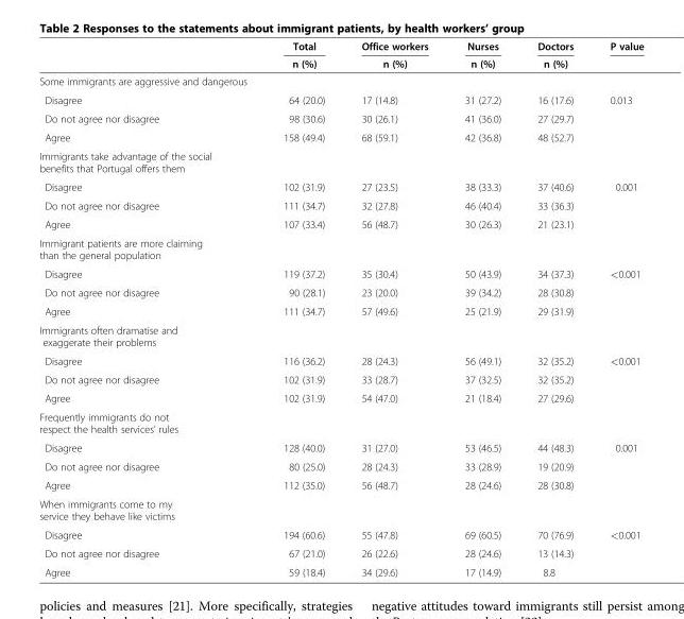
<table><thead><tr><td rowspan="2"></td><td rowspan="2">Total n (%)</td><td rowspan="2">Office workers n (%)</td><td rowspan="2">Nurses n (%)</td><td rowspan="2">Doctors n (%)</td><td rowspan="2">P value</td></tr><tr></tr></thead><tbody><tr><td colspan="6">Some immigrants are aggressive and dangerous</td></tr><tr><td>Disagree</td><td>64 (20.0)</td><td>17 (14.8)</td><td>31 (27.2)</td><td>16 (17.6)</td><td>0.013</td></tr><tr><td>Do not agree nor disagree</td><td>98 (30.6)</td><td>30 (26.1)</td><td>41 (36.0)</td><td>27 (29.7)</td><td></td></tr><tr><td>Agree</td><td>158 (49.4)</td><td>68 (59.1)</td><td>42 (36.8)</td><td>48 (52.7)</td><td></td></tr><tr><td colspan="6">Immigrants take advantage of the social benefits that Portugal offers them</td></tr><tr><td>Disagree</td><td>102 (31.9)</td><td>27 (23.5)</td><td>38 (33.3)</td><td>37 (40.6)</td><td>0.001</td></tr><tr><td>Do not agree nor disagree</td><td>111 (34.7)</td><td>32 (27.8)</td><td>46 (40.4)</td><td>33 (36.3)</td><td></td></tr><tr><td>Agree</td><td>107 (33.4)</td><td>56 (48.7)</td><td>30 (26.3)</td><td>21 (23.1)</td><td></td></tr><tr><td colspan="6">Immigrant patients are more claiming than the general population</td></tr><tr><td>Disagree</td><td>119 (37.2)</td><td>35 (30.4)</td><td>50 (43.9)</td><td>34 (37.3)</td><td>&lt;0.001</td></tr><tr><td>Do not agree nor disagree</td><td>90 (28.1)</td><td>23 (20.0)</td><td>39 (34.2)</td><td>28 (30.8)</td><td></td></tr><tr><td>Agree</td><td>111 (34.7)</td><td>57 (49.6)</td><td>25 (21.9)</td><td>29 (31.9)</td><td></td></tr><tr><td colspan="6">Immigrants often dramatise and exaggerate their problems</td></tr><tr><td>Disagree</td><td>116 (36.2)</td><td>28 (24.3)</td><td>56 (49.1)</td><td>32 (35.2)</td><td>&lt;0.001</td></tr><tr><td>Do not agree nor disagree</td><td>102 (31.9)</td><td>33 (28.7)</td><td>37 (32.5)</td><td>32 (35.2)</td><td></td></tr><tr><td>Agree</td><td>102 (31.9)</td><td>54 (47.0)</td><td>21 (18.4)</td><td>27 (29.6)</td><td></td></tr><tr><td colspan="6">Frequently immigrants do not respect the health services’ rules</td></tr><tr><td>Disagree</td><td>128 (40.0)</td><td>31 (27.0)</td><td>53 (46.5)</td><td>44 (48.3)</td><td>0.001</td></tr><tr><td>Do not agree nor disagree</td><td>80 (25.0)</td><td>28 (24.3)</td><td>33 (28.9)</td><td>19 (20.9)</td><td></td></tr><tr><td>Agree</td><td>112 (35.0)</td><td>56 (48.7)</td><td>28 (24.6)</td><td>28 (30.8)</td><td></td></tr><tr><td colspan="6">When immigrants come to my service they behave like victims</td></tr><tr><td>Disagree</td><td>194 (60.6)</td><td>55 (47.8)</td><td>69 (60.5)</td><td>70 (76.9)</td><td>&lt;0.001</td></tr><tr><td>Do not agree nor disagree</td><td>67 (21.0)</td><td>26 (22.6)</td><td>28 (24.6)</td><td>13 (14.3)</td><td></td></tr><tr><td>Agree</td><td>59 (18.4)</td><td>34 (29.6)</td><td>17 (14.9)</td><td>8.8</td><td></td></tr></tbody></table>